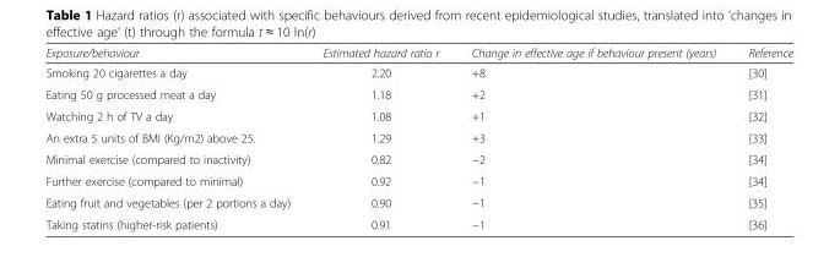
<table><thead><tr><td>Exposure/behaviour</td><td>Estimated hazard ratio r</td><td>Change in effective age if behaviour present (years)</td><td>Reference</td></tr></thead><tbody><tr><td>Smoking 20 cigarettes a day</td><td>2.20</td><td>+8</td><td>[30]</td></tr><tr><td>Eating 50 g processed meat a day</td><td>1.18</td><td>+2</td><td>[31]</td></tr><tr><td>Watching 2 h of TV a day</td><td>1.08</td><td>+1</td><td>[32]</td></tr><tr><td>An extra 5 units of BMI (Kg/m2) above 25.</td><td>1.29</td><td>+3</td><td>[33]</td></tr><tr><td>Minimal exercise (compared to inactivity)</td><td>0.82</td><td>−2</td><td>[34]</td></tr><tr><td>Further exercise (compared to minimal)</td><td>0.92</td><td>−1</td><td>[34]</td></tr><tr><td>Eating fruit and vegetables (per 2 portions a day)</td><td>0.90</td><td>−1</td><td>[35]</td></tr><tr><td>Taking statins (higher-risk patients)</td><td>0.91</td><td>−1</td><td>[36]</td></tr></tbody></table>